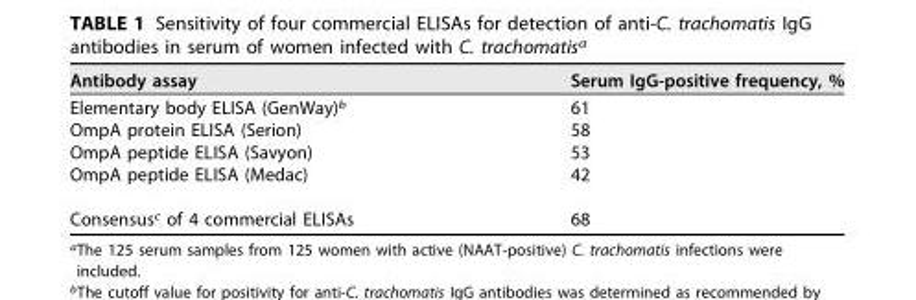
<table><thead><tr><td>Antibody assay</td><td>Serum IgG-positive frequency, %</td></tr></thead><tbody><tr><td>Elementary body ELISA (GenWay)<sup>b</sup></td><td>61</td></tr><tr><td>OmpA protein ELISA (Serion)</td><td>58</td></tr><tr><td>OmpA peptide ELISA (Savyon)</td><td>53</td></tr><tr><td>OmpA peptide ELISA (Medac)</td><td>42</td></tr><tr><td>Consensus<sup>c</sup> of 4 commercial ELISAs</td><td>68</td></tr></tbody></table>